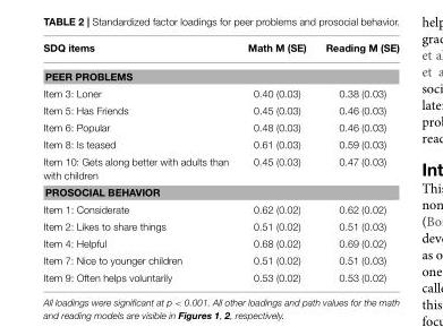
<table><thead><tr><td>SDQ items</td><td>Math M (SE)</td><td>Reading M (SE)</td></tr></thead><tbody><tr><td colspan="3">PEER PROBLEMS</td></tr><tr><td>Item 3: Loner</td><td>0.40 (0.03)</td><td>0.38 (0.03)</td></tr><tr><td>Item 5: Has Friends</td><td>0.45 (0.03)</td><td>0.46 (0.03)</td></tr><tr><td>Item 6: Popular</td><td>0.48 (0.03)</td><td>0.46 (0.03)</td></tr><tr><td>Item 8: Is teased</td><td>0.61 (0.03)</td><td>0.59 (0.03)</td></tr><tr><td>Item 10: Gets along better with adults than with children</td><td>0.45 (0.03)</td><td>0.47 (0.03)</td></tr><tr><td colspan="3">PROSOCIAL BEHAVIOR</td></tr><tr><td>Item 1: Considerate</td><td>0.62 (0.02)</td><td>0.62 (0.02)</td></tr><tr><td>Item 2: Likes to share things</td><td>0.51 (0.02)</td><td>0.51 (0.03)</td></tr><tr><td>Item 4: Helpful</td><td>0.68 (0.02)</td><td>0.69 (0.02)</td></tr><tr><td>Item 7: Nice to younger children</td><td>0.51 (0.02)</td><td>0.51 (0.03)</td></tr><tr><td>Item 9: Often helps voluntarily</td><td>0.53 (0.02)</td><td>0.53 (0.02)</td></tr></tbody></table>